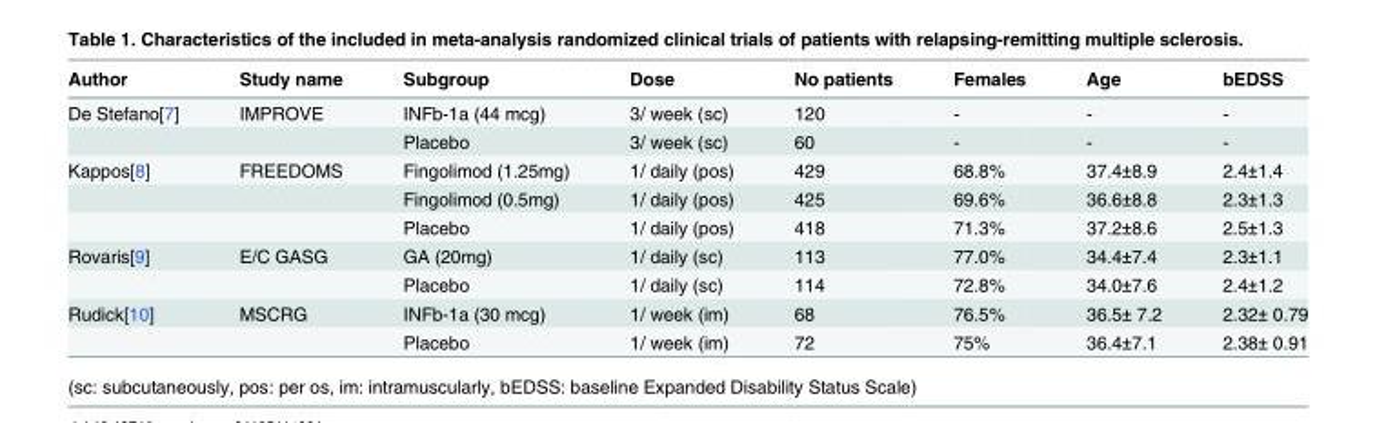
<table><thead><tr><td>Author</td><td>Study name</td><td>Subgroup</td><td>Dose</td><td>No patients</td><td>Females</td><td>Age</td><td>bEDSS</td></tr></thead><tbody><tr><td rowspan="2">De Stefano[7]</td><td>IMPROVE</td><td>INFb-1a (44 mcg)</td><td>3/ week (sc)</td><td>120</td><td>-</td><td>-</td><td>-</td></tr><tr><td></td><td>Placebo</td><td>3/ week (sc)</td><td>60</td><td>-</td><td>-</td><td>-</td></tr><tr><td rowspan="3">Kappos[8]</td><td>FREEDOMS</td><td>Fingolimod (1.25mg)</td><td>1/ daily (pos)</td><td>429</td><td>68.8%</td><td>37.4±8.9</td><td>2.4±1.4</td></tr><tr><td></td><td>Fingolimod (0.5mg)</td><td>1/ daily (pos)</td><td>425</td><td>69.6%</td><td>36.6±8.8</td><td>2.3±1.3</td></tr><tr><td></td><td>Placebo</td><td>1/ daily (pos)</td><td>418</td><td>71.3%</td><td>37.2±8.6</td><td>2.5±1.3</td></tr><tr><td rowspan="2">Rovaris[9]</td><td>E/C GASG</td><td>GA (20mg)</td><td>1/ daily (sc)</td><td>113</td><td>77.0%</td><td>34.4±7.4</td><td>2.3±1.1</td></tr><tr><td></td><td>Placebo</td><td>1/ daily (sc)</td><td>114</td><td>72.8%</td><td>34.0±7.6</td><td>2.4±1.2</td></tr><tr><td rowspan="2">Rudick[10]</td><td>MSCRG</td><td>INFb-1a (30 mcg)</td><td>1/ week (im)</td><td>68</td><td>76.5%</td><td>36.5± 7.2</td><td>2.32± 0.79</td></tr><tr><td></td><td>Placebo</td><td>1/ week (im)</td><td>72</td><td>75%</td><td>36.4±7.1</td><td>2.38± 0.91</td></tr></tbody></table>